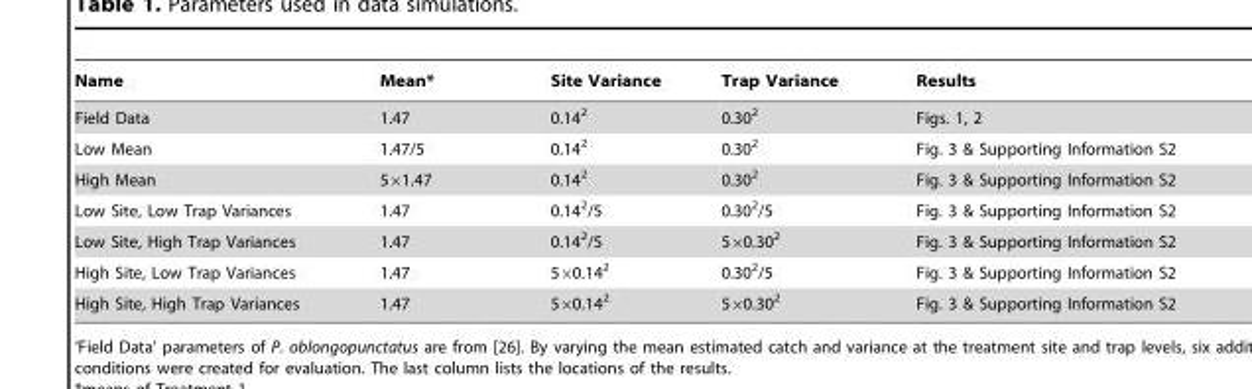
<table><thead><tr><td>Name</td><td>Mean*</td><td>Site Variance</td><td>Trap Variance</td><td>Results</td></tr></thead><tbody><tr><td>Field Data</td><td>1.47</td><td>0.14<sup>2</sup></td><td>0.30<sup>2</sup></td><td>Figs. 1, 2</td></tr><tr><td>Low Mean</td><td>1.47/5</td><td>0.14<sup>2</sup></td><td>0.30<sup>2</sup></td><td>Fig. 3 &amp; Supporting Information S2</td></tr><tr><td>High Mean</td><td>5×1.47</td><td>0.14<sup>2</sup></td><td>0.30<sup>2</sup></td><td>Fig. 3 &amp; Supporting Information S2</td></tr><tr><td>Low Site, Low Trap Variances</td><td>1.47</td><td>0.14<sup>2</sup>/5</td><td>0.30<sup>2</sup>/5</td><td>Fig. 3 &amp; Supporting Information S2</td></tr><tr><td>Low Site, High Trap Variances</td><td>1.47</td><td>0.14<sup>2</sup>/5</td><td>5×0.30<sup>2</sup></td><td>Fig. 3 &amp; Supporting Information S2</td></tr><tr><td>High Site, Low Trap Variances</td><td>1.47</td><td>5×0.14<sup>2</sup></td><td>0.30<sup>2</sup>/5</td><td>Fig. 3 &amp; Supporting Information S2</td></tr><tr><td>High Site, High Trap Variances</td><td>1.47</td><td>5×0.14<sup>2</sup></td><td>5×0.30<sup>2</sup></td><td>Fig. 3 &amp; Supporting Information S2</td></tr></tbody></table>